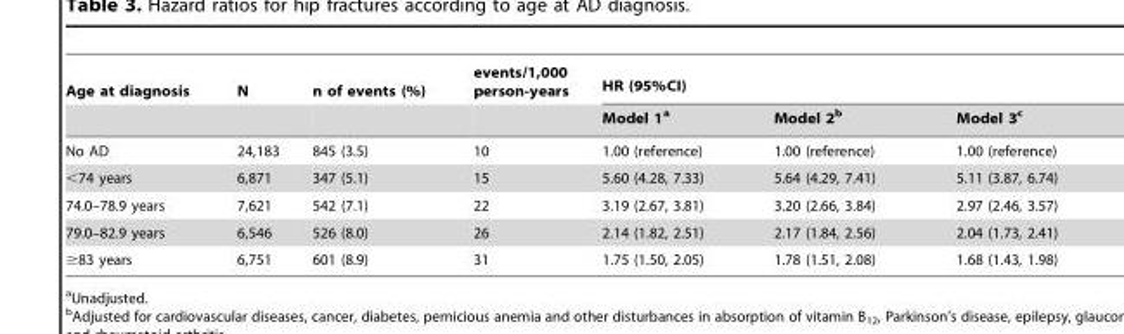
<table><thead><tr><td rowspan="2">Age at diagnosis</td><td rowspan="2">N</td><td rowspan="2">n of events (%)</td><td rowspan="2">events/1,000 person-years</td><td colspan="3">HR (95%CI)</td></tr><tr><td>Model 1<sup>a</sup></td><td>Model 2<sup>b</sup></td><td>Model 3<sup>c</sup></td></tr></thead><tbody><tr><td>No AD</td><td>24,183</td><td>845 (3.5)</td><td>10</td><td>1.00 (reference)</td><td>1.00 (reference)</td><td>1.00 (reference)</td></tr><tr><td>&lt;74 years</td><td>6,871</td><td>347 (5.1)</td><td>15</td><td>5.60 (4.28, 7.33)</td><td>5.64 (4.29, 7.41)</td><td>5.11 (3.87, 6.74)</td></tr><tr><td>74.0–78.9 years</td><td>7,621</td><td>542 (7.1)</td><td>22</td><td>3.19 (2.67, 3.81)</td><td>3.20 (2.66, 3.84)</td><td>2.97 (2.46, 3.57)</td></tr><tr><td>79.0–82.9 years</td><td>6,546</td><td>526 (8.0)</td><td>26</td><td>2.14 (1.82, 2.51)</td><td>2.17 (1.84, 2.56)</td><td>2.04 (1.73, 2.41)</td></tr><tr><td>≥83 years</td><td>6,751</td><td>601 (8.9)</td><td>31</td><td>1.75 (1.50, 2.05)</td><td>1.78 (1.51, 2.08)</td><td>1.68 (1.43, 1.98)</td></tr></tbody></table>